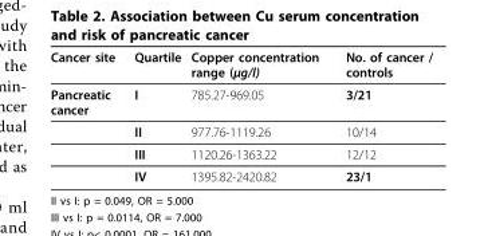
<table><thead><tr><td>Cancer site</td><td>Quartile</td><td>Copper concentration range (µg/l)</td><td>No. of cancer / controls</td></tr></thead><tbody><tr><td rowspan="4">Pancreatic cancer</td><td>I</td><td>785.27-969.05</td><td>3/21</td></tr><tr><td>II</td><td>977.76-1119.26</td><td>10/14</td></tr><tr><td>III</td><td>1120.26-1363.22</td><td>12/12</td></tr><tr><td>IV</td><td>1395.82-2420.82</td><td>23/1</td></tr></tbody></table>